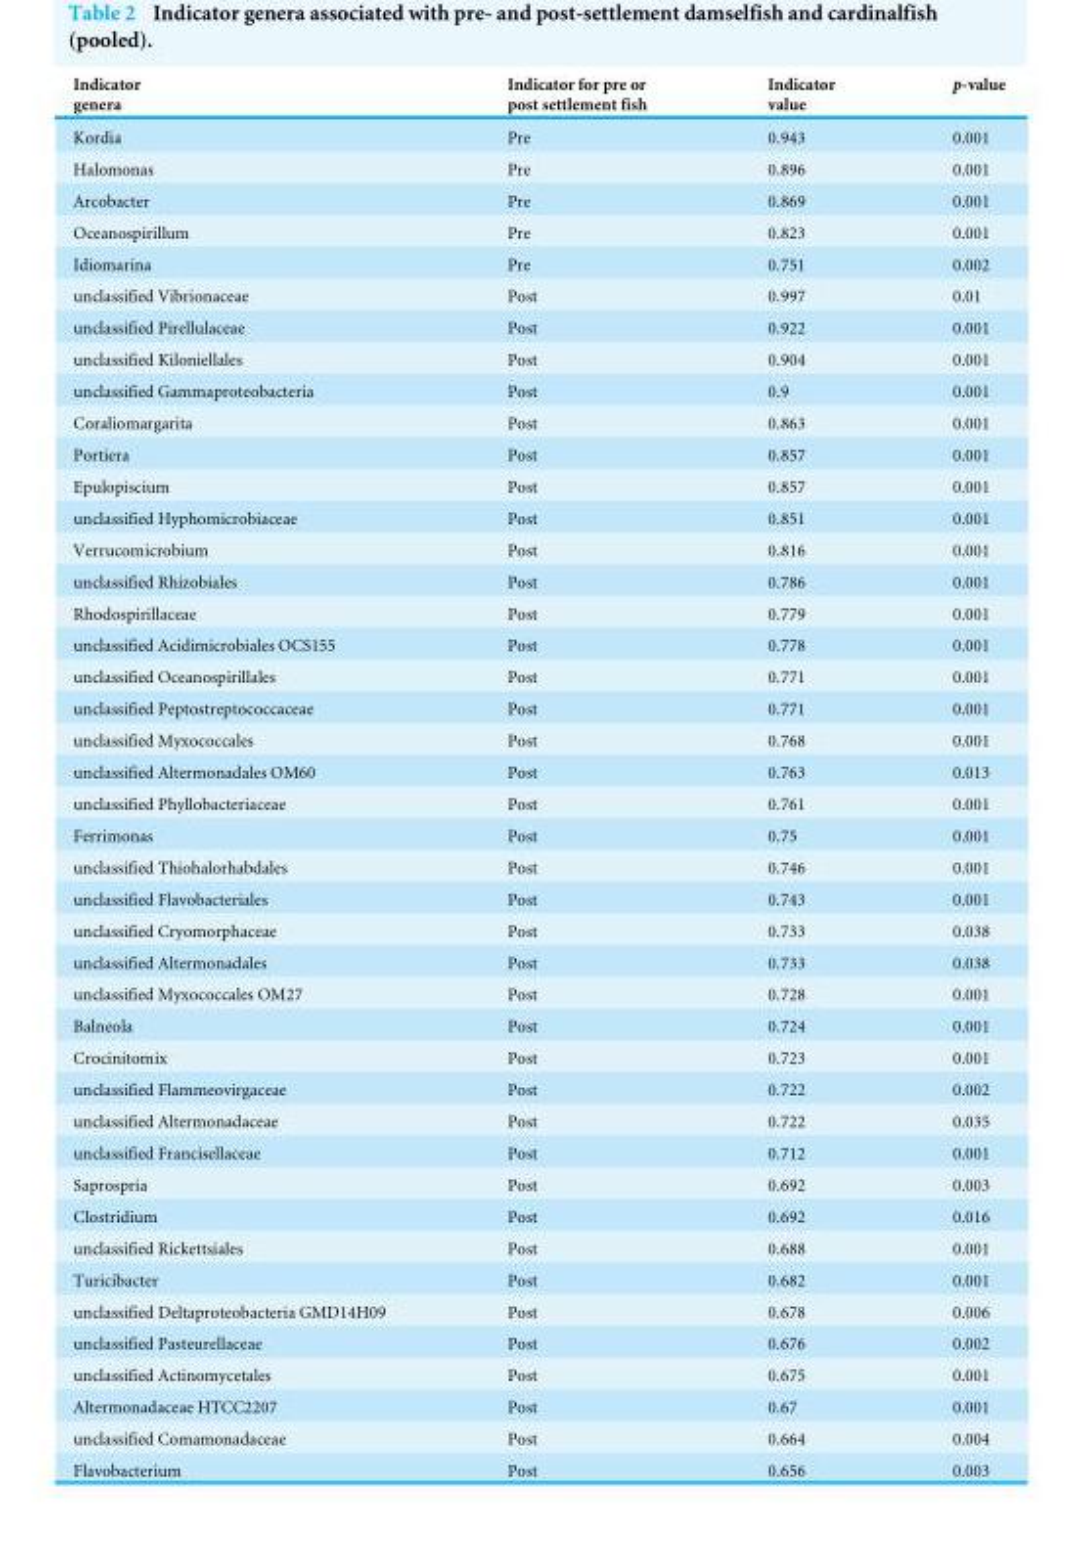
<table><thead><tr><td>Indicator genera</td><td>Indicator for pre or post settlement fish</td><td>Indicator value</td><td>p-value</td></tr></thead><tbody><tr><td>Kordia</td><td>Pre</td><td>0.943</td><td>0.001</td></tr><tr><td>Halomonas</td><td>Pre</td><td>0.896</td><td>0.001</td></tr><tr><td>Arcobacter</td><td>Pre</td><td>0.869</td><td>0.001</td></tr><tr><td>Oceanospirillum</td><td>Pre</td><td>0.823</td><td>0.001</td></tr><tr><td>Idiomarina</td><td>Pre</td><td>0.751</td><td>0.002</td></tr><tr><td>unclassified Vibrionaceae</td><td>Post</td><td>0.997</td><td>0.01</td></tr><tr><td>unclassified Pirellulaceae</td><td>Post</td><td>0.922</td><td>0.001</td></tr><tr><td>unclassified Kiloniellales</td><td>Post</td><td>0.904</td><td>0.001</td></tr><tr><td>unclassified Gammaproteobacteria</td><td>Post</td><td>0.9</td><td>0.001</td></tr><tr><td>Coraliomargarita</td><td>Post</td><td>0.863</td><td>0.001</td></tr><tr><td>Portiera</td><td>Post</td><td>0.857</td><td>0.001</td></tr><tr><td>Epulopiscium</td><td>Post</td><td>0.857</td><td>0.001</td></tr><tr><td>unclassified Hyphomicrobiaceae</td><td>Post</td><td>0.851</td><td>0.001</td></tr><tr><td>Verrucomicrobium</td><td>Post</td><td>0.816</td><td>0.001</td></tr><tr><td>unclassified Rhizobiales</td><td>Post</td><td>0.786</td><td>0.001</td></tr><tr><td>Rhodospirillaceae</td><td>Post</td><td>0.779</td><td>0.001</td></tr><tr><td>unclassified Acidimicrobiales OCS155</td><td>Post</td><td>0.778</td><td>0.001</td></tr><tr><td>unclassified Oceanospirillales</td><td>Post</td><td>0.771</td><td>0.001</td></tr><tr><td>unclassified Peptostreptococcaceae</td><td>Post</td><td>0.771</td><td>0.001</td></tr><tr><td>unclassified Myxococcales</td><td>Post</td><td>0.768</td><td>0.001</td></tr><tr><td>unclassified Altermonadales OM60</td><td>Post</td><td>0.763</td><td>0.013</td></tr><tr><td>unclassified Phyllobacteriaceae</td><td>Post</td><td>0.761</td><td>0.001</td></tr><tr><td>Ferrimonas</td><td>Post</td><td>0.75</td><td>0.001</td></tr><tr><td>unclassified Thiohalorhabdales</td><td>Post</td><td>0.746</td><td>0.001</td></tr><tr><td>unclassified Flavobacteriales</td><td>Post</td><td>0.743</td><td>0.001</td></tr><tr><td>unclassified Cryomorphaceae</td><td>Post</td><td>0.733</td><td>0.038</td></tr><tr><td>unclassified Altermonadales</td><td>Post</td><td>0.733</td><td>0.038</td></tr><tr><td>unclassified Myxococcales OM27</td><td>Post</td><td>0.728</td><td>0.001</td></tr><tr><td>Balneola</td><td>Post</td><td>0.724</td><td>0.001</td></tr><tr><td>Crocinitomix</td><td>Post</td><td>0.723</td><td>0.001</td></tr><tr><td>unclassified Flammeovirgaceae</td><td>Post</td><td>0.722</td><td>0.002</td></tr><tr><td>unclassified Altermonadaceae</td><td>Post</td><td>0.722</td><td>0.035</td></tr><tr><td>unclassified Francisellaceae</td><td>Post</td><td>0.712</td><td>0.001</td></tr><tr><td>Saprospria</td><td>Post</td><td>0.692</td><td>0.003</td></tr><tr><td>Clostridium</td><td>Post</td><td>0.692</td><td>0.016</td></tr><tr><td>unclassified Rickettsiales</td><td>Post</td><td>0.688</td><td>0.001</td></tr><tr><td>Turicibacter</td><td>Post</td><td>0.682</td><td>0.001</td></tr><tr><td>unclassified Deltaproteobacteria GMD14H09</td><td>Post</td><td>0.678</td><td>0.006</td></tr><tr><td>unclassified Pasteurellaceae</td><td>Post</td><td>0.676</td><td>0.002</td></tr><tr><td>unclassified Actinomycetales</td><td>Post</td><td>0.675</td><td>0.001</td></tr><tr><td>Altermonadaceae HTCC2207</td><td>Post</td><td>0.67</td><td>0.001</td></tr><tr><td>unclassified Comamonadaceae</td><td>Post</td><td>0.664</td><td>0.004</td></tr><tr><td>Flavobacterium</td><td>Post</td><td>0.656</td><td>0.003</td></tr></tbody></table>